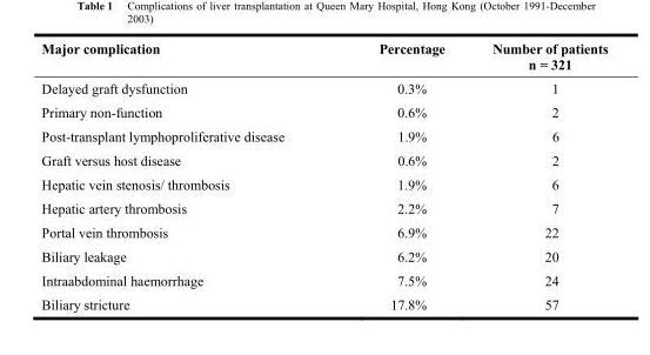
<table><thead><tr><td>Major complication</td><td>Percentage</td><td>Number of patients n = 321</td></tr></thead><tbody><tr><td>Delayed graft dysfunction</td><td>0.3%</td><td>1</td></tr><tr><td>Primary non-function</td><td>0.6%</td><td>2</td></tr><tr><td>Post-transplant lymphoproliferative disease</td><td>1.9%</td><td>6</td></tr><tr><td>Graft versus host disease</td><td>0.6%</td><td>2</td></tr><tr><td>Hepatic vein stenosis/ thrombosis</td><td>1.9%</td><td>6</td></tr><tr><td>Hepatic artery thrombosis</td><td>2.2%</td><td>7</td></tr><tr><td>Portal vein thrombosis</td><td>6.9%</td><td>22</td></tr><tr><td>Biliary leakage</td><td>6.2%</td><td>20</td></tr><tr><td>Intraabdominal haemorrhage</td><td>7.5%</td><td>24</td></tr><tr><td>Biliary stricture</td><td>17.8%</td><td>57</td></tr></tbody></table>